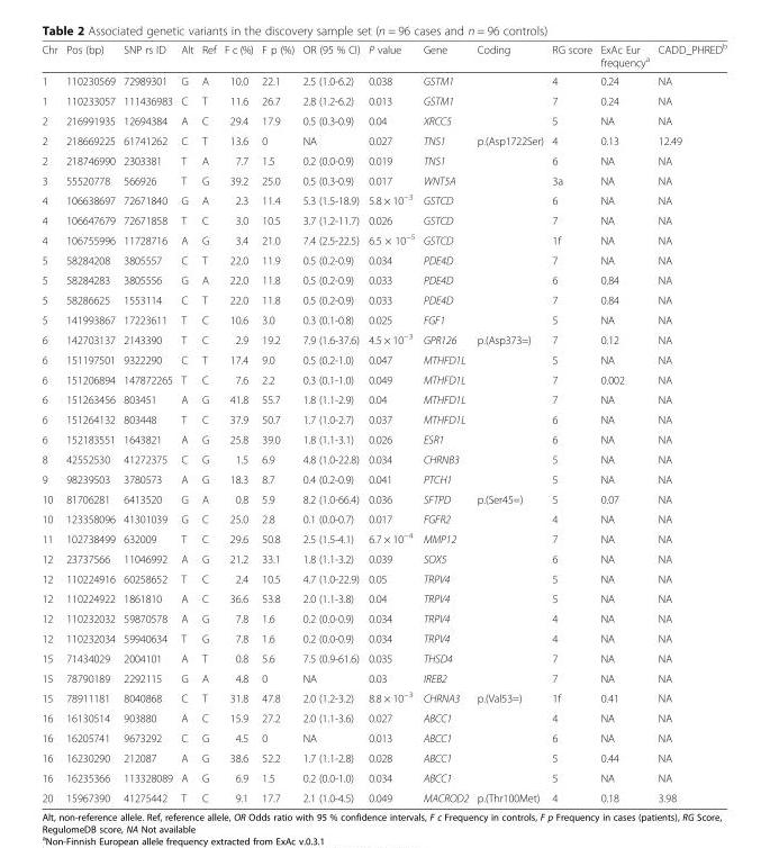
<table><thead><tr><td>Chr</td><td>Pos (bp)</td><td>SNP rs ID</td><td>Alt</td><td>Ref</td><td>F c (%)</td><td>F p (%)</td><td>OR (95 % CI)</td><td>P value</td><td>Gene</td><td>Coding</td><td>RG score</td><td>ExAc Eur frequency<sup>a</sup></td><td>CADD_PHRED<sup>b</sup></td></tr></thead><tbody><tr><td>1</td><td>110230569</td><td>72989301</td><td>G</td><td>A</td><td>10.0</td><td>22.1</td><td>2.5 (1.0-6.2)</td><td>0.038</td><td>GSTM1</td><td></td><td>4</td><td>0.24</td><td>NA</td></tr><tr><td>1</td><td>110233057</td><td>111436983</td><td>C</td><td>T</td><td>11.6</td><td>26.7</td><td>2.8 (1.2-6.2)</td><td>0.013</td><td>GSTM1</td><td></td><td>7</td><td>0.24</td><td>NA</td></tr><tr><td>2</td><td>216991935</td><td>12694384</td><td>A</td><td>C</td><td>29.4</td><td>17.9</td><td>0.5 (0.3-0.9)</td><td>0.04</td><td>XRCC5</td><td></td><td>5</td><td>NA</td><td>NA</td></tr><tr><td>2</td><td>218669225</td><td>61741262</td><td>C</td><td>T</td><td>13.6</td><td>0</td><td>NA</td><td>0.027</td><td>TNS1</td><td>p.(Asp1722Ser)</td><td>4</td><td>0.13</td><td>12.49</td></tr><tr><td>2</td><td>218746990</td><td>2303381</td><td>T</td><td>A</td><td>7.7</td><td>1.5</td><td>0.2 (0.0-0.9)</td><td>0.019</td><td>TNS1</td><td></td><td>6</td><td>NA</td><td>NA</td></tr><tr><td>3</td><td>55520778</td><td>566926</td><td>T</td><td>G</td><td>39.2</td><td>25.0</td><td>0.5 (0.3-0.9)</td><td>0.017</td><td>WNT5A</td><td></td><td>3a</td><td>NA</td><td>NA</td></tr><tr><td>4</td><td>106638697</td><td>72671840</td><td>G</td><td>A</td><td>2.3</td><td>11.4</td><td>5.3 (1.5-18.9)</td><td>5.8 × 10<sup>−3</sup></td><td>GSTCD</td><td></td><td>6</td><td>NA</td><td>NA</td></tr><tr><td>4</td><td>106647679</td><td>72671858</td><td>T</td><td>C</td><td>3.0</td><td>10.5</td><td>3.7 (1.2-11.7)</td><td>0.026</td><td>GSTCD</td><td></td><td>7</td><td>NA</td><td>NA</td></tr><tr><td>4</td><td>106755996</td><td>11728716</td><td>A</td><td>G</td><td>3.4</td><td>21.0</td><td>7.4 (2.5-22.5)</td><td>6.5 × 10<sup>−5</sup></td><td>GSTCD</td><td></td><td>1f</td><td>NA</td><td>NA</td></tr><tr><td>5</td><td>58284208</td><td>3805557</td><td>C</td><td>T</td><td>22.0</td><td>11.9</td><td>0.5 (0.2-0.9)</td><td>0.034</td><td>PDE4D</td><td></td><td>7</td><td>NA</td><td>NA</td></tr><tr><td>5</td><td>58284283</td><td>3805556</td><td>G</td><td>A</td><td>22.0</td><td>11.8</td><td>0.5 (0.2-0.9)</td><td>0.033</td><td>PDE4D</td><td></td><td>6</td><td>0.84</td><td>NA</td></tr><tr><td>5</td><td>58286625</td><td>1553114</td><td>C</td><td>T</td><td>22.0</td><td>11.8</td><td>0.5 (0.2-0.9)</td><td>0.033</td><td>PDE4D</td><td></td><td>7</td><td>0.84</td><td>NA</td></tr><tr><td>5</td><td>141993867</td><td>17223611</td><td>T</td><td>C</td><td>10.6</td><td>3.0</td><td>0.3 (0.1-0.8)</td><td>0.025</td><td>FGF1</td><td></td><td>5</td><td>NA</td><td>NA</td></tr><tr><td>6</td><td>142703137</td><td>2143390</td><td>T</td><td>C</td><td>2.9</td><td>19.2</td><td>7.9 (1.6-37.6)</td><td>4.5 × 10<sup>−3</sup></td><td>GPR126</td><td>p.(Asp373=)</td><td>7</td><td>0.12</td><td>NA</td></tr><tr><td>6</td><td>151197501</td><td>9322290</td><td>C</td><td>T</td><td>17.4</td><td>9.0</td><td>0.5 (0.2-1.0)</td><td>0.047</td><td>MTHFD1L</td><td></td><td>5</td><td>NA</td><td>NA</td></tr><tr><td>6</td><td>151206894</td><td>147872265</td><td>T</td><td>C</td><td>7.6</td><td>2.2</td><td>0.3 (0.1-1.0)</td><td>0.049</td><td>MTHFD1L</td><td></td><td>7</td><td>0.002</td><td>NA</td></tr><tr><td>6</td><td>151263456</td><td>803451</td><td>A</td><td>G</td><td>41.8</td><td>55.7</td><td>1.8 (1.1-2.9)</td><td>0.04</td><td>MTHFD1L</td><td></td><td>7</td><td>NA</td><td>NA</td></tr><tr><td>6</td><td>151264132</td><td>803448</td><td>T</td><td>C</td><td>37.9</td><td>50.7</td><td>1.7 (1.0-2.7)</td><td>0.037</td><td>MTHFD1L</td><td></td><td>6</td><td>NA</td><td>NA</td></tr><tr><td>6</td><td>152183551</td><td>1643821</td><td>A</td><td>G</td><td>25.8</td><td>39.0</td><td>1.8 (1.1-3.1)</td><td>0.026</td><td>ESR1</td><td></td><td>6</td><td>NA</td><td>NA</td></tr><tr><td>8</td><td>42552530</td><td>41272375</td><td>C</td><td>G</td><td>1.5</td><td>6.9</td><td>4.8 (1.0-22.8)</td><td>0.034</td><td>CHRNB3</td><td></td><td>5</td><td>NA</td><td>NA</td></tr><tr><td>9</td><td>98239503</td><td>3780573</td><td>A</td><td>G</td><td>18.3</td><td>8.7</td><td>0.4 (0.2-0.9)</td><td>0.041</td><td>PTCH1</td><td></td><td>5</td><td>NA</td><td>NA</td></tr><tr><td>10</td><td>81706281</td><td>6413520</td><td>G</td><td>A</td><td>0.8</td><td>5.9</td><td>8.2 (1.0-66.4)</td><td>0.036</td><td>SFTPD</td><td>p.(Ser45=)</td><td>5</td><td>0.07</td><td>NA</td></tr><tr><td>10</td><td>123358096</td><td>41301039</td><td>G</td><td>C</td><td>25.0</td><td>2.8</td><td>0.1 (0.0-0.7)</td><td>0.017</td><td>FGFR2</td><td></td><td>4</td><td>NA</td><td>NA</td></tr><tr><td>11</td><td>102738499</td><td>632009</td><td>T</td><td>C</td><td>29.6</td><td>50.8</td><td>2.5 (1.5-4.1)</td><td>6.7 × 10<sup>−4</sup></td><td>MMP12</td><td></td><td>7</td><td>NA</td><td>NA</td></tr><tr><td>12</td><td>23737566</td><td>11046992</td><td>A</td><td>G</td><td>21.2</td><td>33.1</td><td>1.8 (1.1-3.2)</td><td>0.039</td><td>SOX5</td><td></td><td>6</td><td>NA</td><td>NA</td></tr><tr><td>12</td><td>110224916</td><td>60258652</td><td>T</td><td>C</td><td>2.4</td><td>10.5</td><td>4.7 (1.0-22.9)</td><td>0.05</td><td>TRPV4</td><td></td><td>5</td><td>NA</td><td>NA</td></tr><tr><td>12</td><td>110224922</td><td>1861810</td><td>A</td><td>C</td><td>36.6</td><td>53.8</td><td>2.0 (1.1-3.8)</td><td>0.04</td><td>TRPV4</td><td></td><td>5</td><td>NA</td><td>NA</td></tr><tr><td>12</td><td>110232032</td><td>59870578</td><td>A</td><td>G</td><td>7.8</td><td>1.6</td><td>0.2 (0.0-0.9)</td><td>0.034</td><td>TRPV4</td><td></td><td>4</td><td>NA</td><td>NA</td></tr><tr><td>12</td><td>110232034</td><td>59940634</td><td>T</td><td>G</td><td>7.8</td><td>1.6</td><td>0.2 (0.0-0.9)</td><td>0.034</td><td>TRPV4</td><td></td><td>4</td><td>NA</td><td>NA</td></tr><tr><td>15</td><td>71434029</td><td>2004101</td><td>A</td><td>T</td><td>0.8</td><td>5.6</td><td>7.5 (0.9-61.6)</td><td>0.035</td><td>THSD4</td><td></td><td>7</td><td>NA</td><td>NA</td></tr><tr><td>15</td><td>78790189</td><td>2292115</td><td>G</td><td>A</td><td>4.8</td><td>0</td><td>NA</td><td>0.03</td><td>IREB2</td><td></td><td>7</td><td>NA</td><td>NA</td></tr><tr><td>15</td><td>78911181</td><td>8040868</td><td>C</td><td>T</td><td>31.8</td><td>47.8</td><td>2.0 (1.2-3.2)</td><td>8.8 × 10<sup>−3</sup></td><td>CHRNA3</td><td>p.(Val53=)</td><td>1f</td><td>0.41</td><td>NA</td></tr><tr><td>16</td><td>16130514</td><td>903880</td><td>A</td><td>C</td><td>15.9</td><td>27.2</td><td>2.0 (1.1-3.6)</td><td>0.027</td><td>ABCC1</td><td></td><td>4</td><td>NA</td><td>NA</td></tr><tr><td>16</td><td>16205741</td><td>9673292</td><td>C</td><td>G</td><td>4.5</td><td>0</td><td>NA</td><td>0.013</td><td>ABCC1</td><td></td><td>6</td><td>NA</td><td>NA</td></tr><tr><td>16</td><td>16230290</td><td>212087</td><td>A</td><td>G</td><td>38.6</td><td>52.2</td><td>1.7 (1.1-2.8)</td><td>0.028</td><td>ABCC1</td><td></td><td>5</td><td>0.44</td><td>NA</td></tr><tr><td>16</td><td>16235366</td><td>113328089</td><td>A</td><td>G</td><td>6.9</td><td>1.5</td><td>0.2 (0.0-1.0)</td><td>0.034</td><td>ABCC1</td><td></td><td>5</td><td>NA</td><td>NA</td></tr><tr><td>20</td><td>15967390</td><td>41275442</td><td>T</td><td>C</td><td>9.1</td><td>17.7</td><td>2.1 (1.0-4.5)</td><td>0.049</td><td>MACROD2</td><td>p.(Thr100Met)</td><td>4</td><td>0.18</td><td>3.98</td></tr></tbody></table>